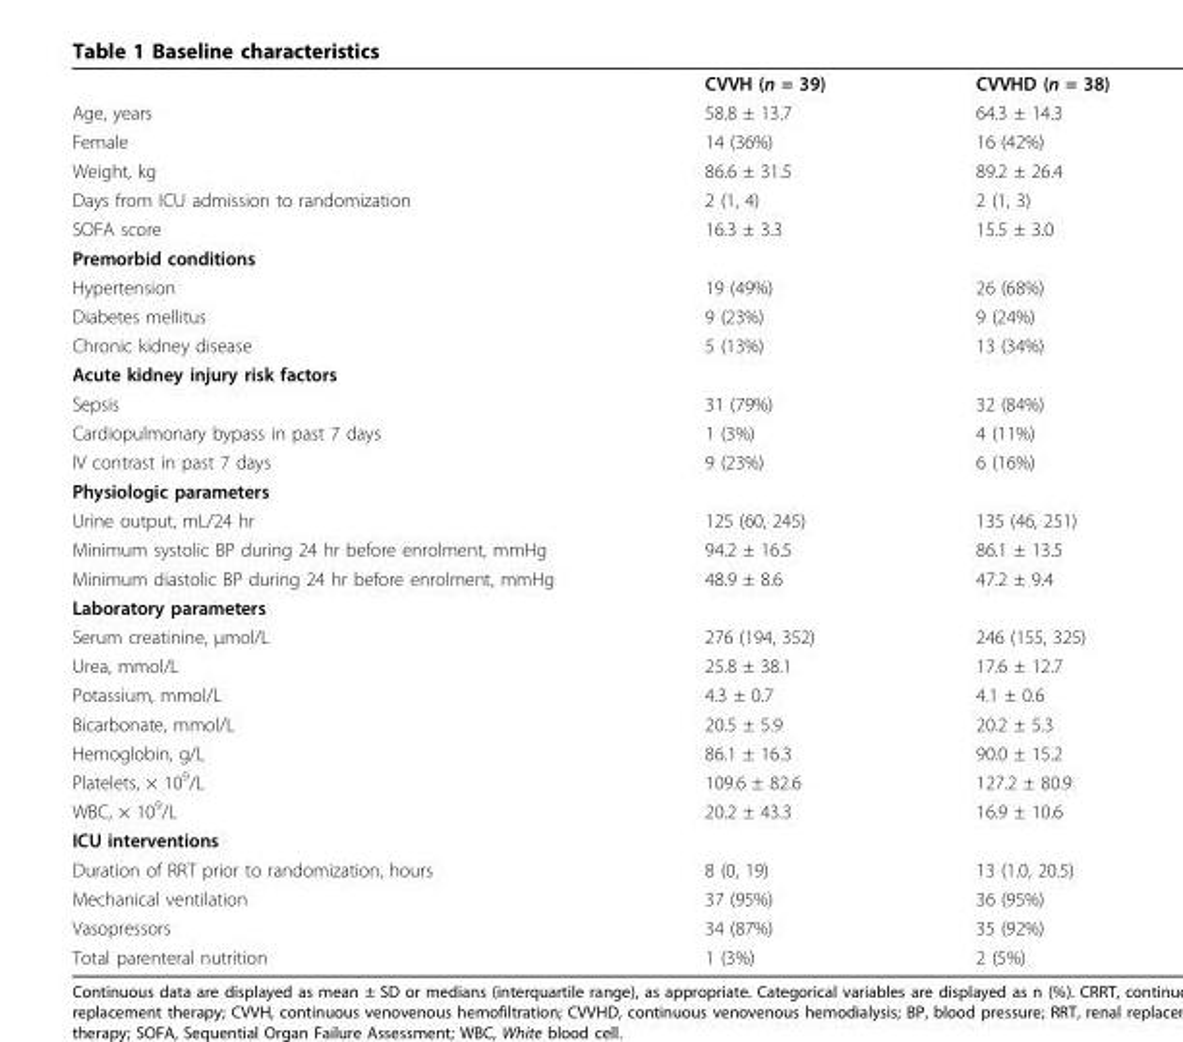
<table><thead><tr><td></td><td>CVVH (n = 39)</td><td>CVVHD (n = 38)</td></tr></thead><tbody><tr><td>Age, years</td><td>58.8 ± 13.7</td><td>64.3 ± 14.3</td></tr><tr><td>Female</td><td>14 (36%)</td><td>16 (42%)</td></tr><tr><td>Weight, kg</td><td>86.6 ± 31.5</td><td>89.2 ± 26.4</td></tr><tr><td>Days from ICU admission to randomization</td><td>2 (1, 4)</td><td>2 (1, 3)</td></tr><tr><td>SOFA score</td><td>16.3 ± 3.3</td><td>15.5 ± 3.0</td></tr><tr><td colspan="3">Premorbid conditions</td></tr><tr><td>Hypertension</td><td>19 (49%)</td><td>26 (68%)</td></tr><tr><td>Diabetes mellitus</td><td>9 (23%)</td><td>9 (24%)</td></tr><tr><td>Chronic kidney disease</td><td>5 (13%)</td><td>13 (34%)</td></tr><tr><td colspan="3">Acute kidney injury risk factors</td></tr><tr><td>Sepsis</td><td>31 (79%)</td><td>32 (84%)</td></tr><tr><td>Cardiopulmonary bypass in past 7 days</td><td>1 (3%)</td><td>4 (11%)</td></tr><tr><td>IV contrast in past 7 days</td><td>9 (23%)</td><td>6 (16%)</td></tr><tr><td colspan="3">Physiologic parameters</td></tr><tr><td>Urine output, mL/24 hr</td><td>125 (60, 245)</td><td>135 (46, 251)</td></tr><tr><td>Minimum systolic BP during 24 hr before enrolment, mmHg</td><td>94.2 ± 16.5</td><td>86.1 ± 13.5</td></tr><tr><td>Minimum diastolic BP during 24 hr before enrolment, mmHg</td><td>48.9 ± 8.6</td><td>47.2 ± 9.4</td></tr><tr><td colspan="3">Laboratory parameters</td></tr><tr><td>Serum creatinine, µmol/L</td><td>276 (194, 352)</td><td>246 (155, 325)</td></tr><tr><td>Urea, mmol/L</td><td>25.8 ± 38.1</td><td>17.6 ± 12.7</td></tr><tr><td>Potassium, mmol/L</td><td>4.3 ± 0.7</td><td>4.1 ± 0.6</td></tr><tr><td>Bicarbonate, mmol/L</td><td>20.5 ± 5.9</td><td>20.2 ± 5.3</td></tr><tr><td>Hemoglobin, g/L</td><td>86.1 ± 16.3</td><td>90.0 ± 15.2</td></tr><tr><td>Platelets, × 10<sup>9</sup>/L</td><td>109.6 ± 82.6</td><td>127.2 ± 80.9</td></tr><tr><td>WBC, × 10<sup>9</sup>/L</td><td>20.2 ± 43.3</td><td>16.9 ± 10.6</td></tr><tr><td colspan="3">ICU interventions</td></tr><tr><td>Duration of RRT prior to randomization, hours</td><td>8 (0, 19)</td><td>13 (1.0, 20.5)</td></tr><tr><td>Mechanical ventilation</td><td>37 (95%)</td><td>36 (95%)</td></tr><tr><td>Vasopressors</td><td>34 (87%)</td><td>35 (92%)</td></tr><tr><td>Total parenteral nutrition</td><td>1 (3%)</td><td>2 (5%)</td></tr></tbody></table>